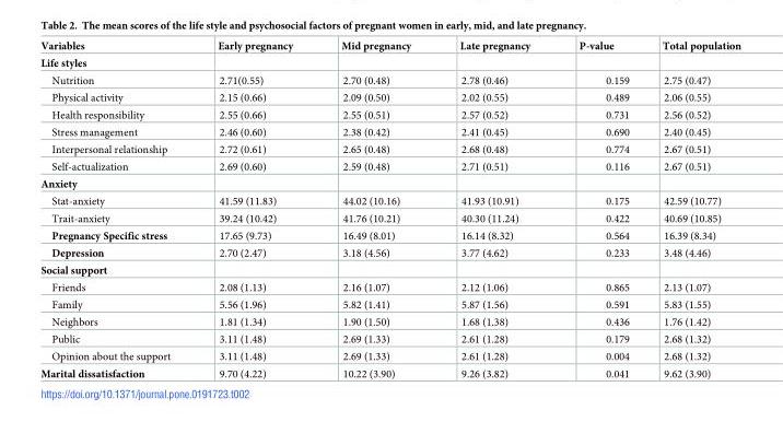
<table><thead><tr><td>Variables</td><td>Early pregnancy</td><td>Mid pregnancy</td><td>Late pregnancy</td><td>P-value</td><td>Total population</td></tr></thead><tbody><tr><td colspan="6">Life styles</td></tr><tr><td>Nutrition</td><td>2.71(0.55)</td><td>2.70 (0.48)</td><td>2.78 (0.46)</td><td>0.159</td><td>2.75 (0.47)</td></tr><tr><td>Physical activity</td><td>2.15 (0.66)</td><td>2.09 (0.50)</td><td>2.02 (0.55)</td><td>0.489</td><td>2.06 (0.55)</td></tr><tr><td>Health responsibility</td><td>2.55 (0.66)</td><td>2.55 (0.51)</td><td>2.57 (0.52)</td><td>0.731</td><td>2.56 (0.52)</td></tr><tr><td>Stress management</td><td>2.46 (0.60)</td><td>2.38 (0.42)</td><td>2.41 (0.45)</td><td>0.690</td><td>2.40 (0.45)</td></tr><tr><td>Interpersonal relationship</td><td>2.72 (0.61)</td><td>2.65 (0.48)</td><td>2.68 (0.48)</td><td>0.774</td><td>2.67 (0.51)</td></tr><tr><td>Self-actualization</td><td>2.69 (0.60)</td><td>2.59 (0.48)</td><td>2.71 (0.51)</td><td>0.116</td><td>2.67 (0.51)</td></tr><tr><td colspan="6">Anxiety</td></tr><tr><td>Stat-anxiety</td><td>41.59 (11.83)</td><td>44.02 (10.16)</td><td>41.93 (10.91)</td><td>0.175</td><td>42.59 (10.77)</td></tr><tr><td>Trait-anxiety</td><td>39.24 (10.42)</td><td>41.76 (10.21)</td><td>40.30 (11.24)</td><td>0.422</td><td>40.69 (10.85)</td></tr><tr><td>Pregnancy Specific stress</td><td>17.65 (9.73)</td><td>16.49 (8.01)</td><td>16.14 (8.32)</td><td>0.564</td><td>16.39 (8.34)</td></tr><tr><td>Depression</td><td>2.70 (2.47)</td><td>3.18 (4.56)</td><td>3.77 (4.62)</td><td>0.233</td><td>3.48 (4.46)</td></tr><tr><td colspan="6">Social support</td></tr><tr><td>Friends</td><td>2.08 (1.13)</td><td>2.16 (1.07)</td><td>2.12 (1.06)</td><td>0.865</td><td>2.13 (1.07)</td></tr><tr><td>Family</td><td>5.56 (1.96)</td><td>5.82 (1.41)</td><td>5.87 (1.56)</td><td>0.591</td><td>5.83 (1.55)</td></tr><tr><td>Neighbors</td><td>1.81 (1.34)</td><td>1.90 (1.50)</td><td>1.68 (1.38)</td><td>0.436</td><td>1.76 (1.42)</td></tr><tr><td>Public</td><td>3.11 (1.48)</td><td>2.69 (1.33)</td><td>2.61 (1.28)</td><td>0.179</td><td>2.68 (1.32)</td></tr><tr><td>Opinion about the support</td><td>3.11 (1.48)</td><td>2.69 (1.33)</td><td>2.61 (1.28)</td><td>0.004</td><td>2.68 (1.32)</td></tr><tr><td>Marital dissatisfaction</td><td>9.70 (4.22)</td><td>10.22 (3.90)</td><td>9.26 (3.82)</td><td>0.041</td><td>9.62 (3.90)</td></tr></tbody></table>